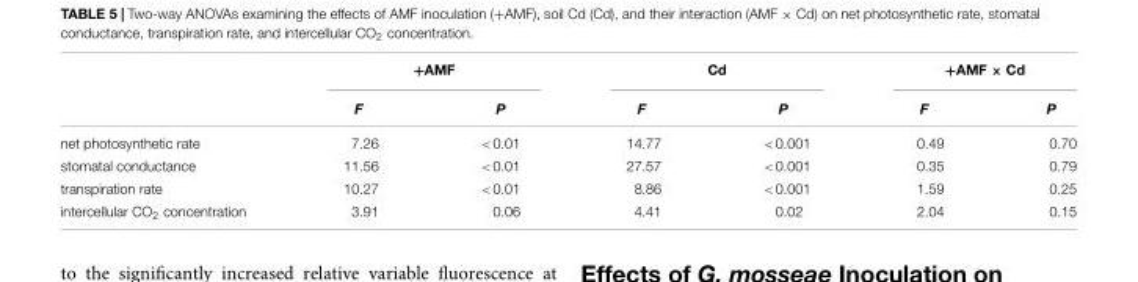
<table><thead><tr><td rowspan="2"></td><td colspan="2">+AMF</td><td colspan="2">Cd</td><td colspan="2">+AMF × Cd</td></tr><tr><td>F</td><td>P</td><td>F</td><td>P</td><td>F</td><td>P</td></tr></thead><tbody><tr><td>net photosynthetic rate</td><td>7.26</td><td>&lt;0.01</td><td>14.77</td><td>&lt;0.001</td><td>0.49</td><td>0.70</td></tr><tr><td>stomatal conductance</td><td>11.56</td><td>&lt;0.01</td><td>27.57</td><td>&lt;0.001</td><td>0.35</td><td>0.79</td></tr><tr><td>transpiration rate</td><td>10.27</td><td>&lt;0.01</td><td>8.86</td><td>&lt;0.001</td><td>1.59</td><td>0.25</td></tr><tr><td>intercellular CO<sub>2</sub> concentration</td><td>3.91</td><td>0.06</td><td>4.41</td><td>0.02</td><td>2.04</td><td>0.15</td></tr></tbody></table>